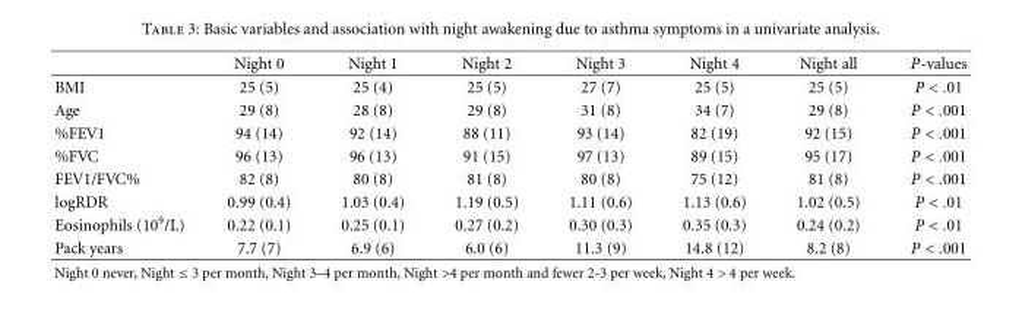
<table><thead><tr><td></td><td>Night 0</td><td>Night 1</td><td>Night 2</td><td>Night 3</td><td>Night 4</td><td>Night all</td><td>P-values</td></tr></thead><tbody><tr><td>BMI</td><td>25 (5)</td><td>25 (4)</td><td>25 (5)</td><td>27 (7)</td><td>25 (5)</td><td>25 (5)</td><td>P &lt; .01</td></tr><tr><td>Age</td><td>29 (8)</td><td>28 (8)</td><td>29 (8)</td><td>31 (8)</td><td>34 (7)</td><td>29 (8)</td><td>P &lt; .001</td></tr><tr><td>%FEV1</td><td>94 (14)</td><td>92 (14)</td><td>88 (11)</td><td>93 (14)</td><td>82 (19)</td><td>92 (15)</td><td>P &lt; .001</td></tr><tr><td>%FVC</td><td>96 (13)</td><td>96 (13)</td><td>91 (15)</td><td>97 (13)</td><td>89 (15)</td><td>95 (17)</td><td>P &lt; .001</td></tr><tr><td>FEV1/FVC%</td><td>82 (8)</td><td>80 (8)</td><td>81 (8)</td><td>80 (8)</td><td>75 (12)</td><td>81 (8)</td><td>P &lt; .001</td></tr><tr><td>logRDR</td><td>0.99 (0.4)</td><td>1.03 (0.4)</td><td>1.19 (0.5)</td><td>1.11 (0.6)</td><td>1.13 (0.6)</td><td>1.02 (0.5)</td><td>P &lt; .01</td></tr><tr><td>Eosinophils (10<sup>9</sup>/L)</td><td>0.22 (0.1)</td><td>0.25 (0.1)</td><td>0.27 (0.2)</td><td>0.30 (0.3)</td><td>0.35 (0.3)</td><td>0.24 (0.2)</td><td>P &lt; .01</td></tr><tr><td>Pack years</td><td>7.7 (7)</td><td>6.9 (6)</td><td>6.0 (6)</td><td>11.3 (9)</td><td>14.8 (12)</td><td>8.2 (8)</td><td>P &lt; .001</td></tr></tbody></table>